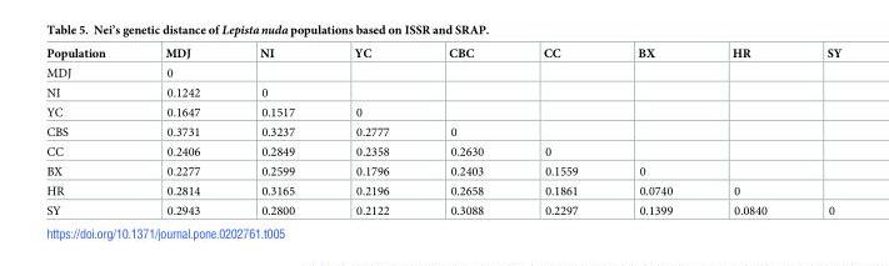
<table><thead><tr><td>Population</td><td>MDJ</td><td>NI</td><td>YC</td><td>CBC</td><td>CC</td><td>BX</td><td>HR</td><td>SY</td></tr></thead><tbody><tr><td>MDJ</td><td>0</td><td></td><td></td><td></td><td></td><td></td><td></td><td></td></tr><tr><td>NI</td><td>0.1242</td><td>0</td><td></td><td></td><td></td><td></td><td></td><td></td></tr><tr><td>YC</td><td>0.1647</td><td>0.1517</td><td>0</td><td></td><td></td><td></td><td></td><td></td></tr><tr><td>CBS</td><td>0.3731</td><td>0.3237</td><td>0.2777</td><td>0</td><td></td><td></td><td></td><td></td></tr><tr><td>CC</td><td>0.2406</td><td>0.2849</td><td>0.2358</td><td>0.2630</td><td>0</td><td></td><td></td><td></td></tr><tr><td>BX</td><td>0.2277</td><td>0.2599</td><td>0.1796</td><td>0.2403</td><td>0.1559</td><td>0</td><td></td><td></td></tr><tr><td>HR</td><td>0.2814</td><td>0.3165</td><td>0.2196</td><td>0.2658</td><td>0.1861</td><td>0.0740</td><td>0</td><td></td></tr><tr><td>SY</td><td>0.2943</td><td>0.2800</td><td>0.2122</td><td>0.3088</td><td>0.2297</td><td>0.1399</td><td>0.0840</td><td>0</td></tr></tbody></table>